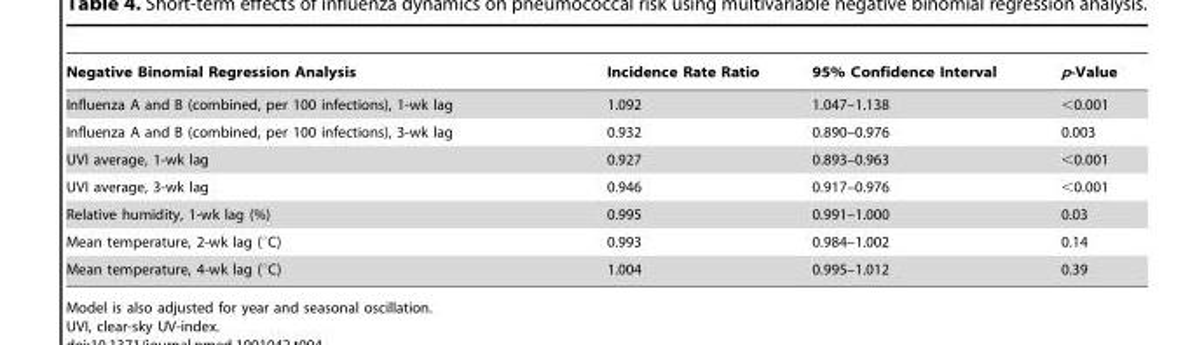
<table><thead><tr><td>Negative Binomial Regression Analysis</td><td>Incidence Rate Ratio</td><td>95% Confidence Interval</td><td>p-Value</td></tr></thead><tbody><tr><td>Influenza A and B (combined, per 100 infections), 1-wk lag</td><td>1.092</td><td>1.047–1.138</td><td>&lt;0.001</td></tr><tr><td>Influenza A and B (combined, per 100 infections), 3-wk lag</td><td>0.932</td><td>0.890–0.976</td><td>0.003</td></tr><tr><td>UVI average, 1-wk lag</td><td>0.927</td><td>0.893–0.963</td><td>&lt;0.001</td></tr><tr><td>UVI average, 3-wk lag</td><td>0.946</td><td>0.917–0.976</td><td>&lt;0.001</td></tr><tr><td>Relative humidity, 1-wk lag (%)</td><td>0.995</td><td>0.991–1.000</td><td>0.03</td></tr><tr><td>Mean temperature, 2-wk lag (°C)</td><td>0.993</td><td>0.984–1.002</td><td>0.14</td></tr><tr><td>Mean temperature, 4-wk lag (°C)</td><td>1.004</td><td>0.995–1.012</td><td>0.39</td></tr></tbody></table>